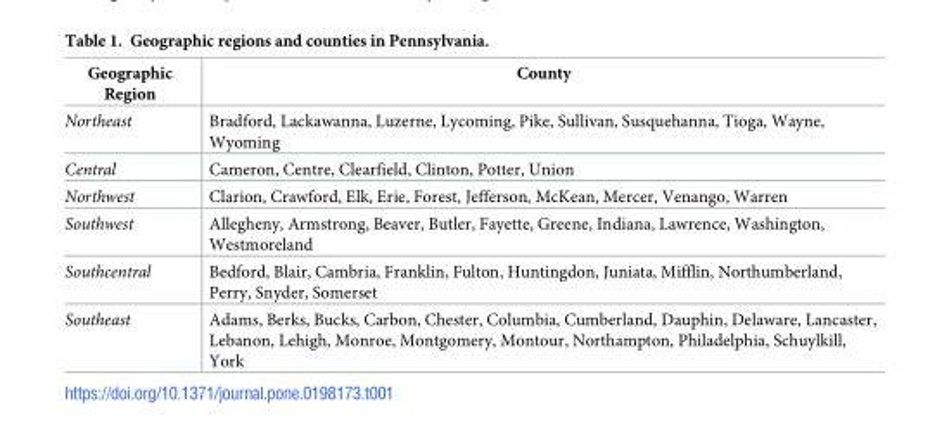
<table><thead><tr><td>Geographic Region</td><td>County</td></tr></thead><tbody><tr><td>Northeast</td><td>Bradford, Lackawanna, Luzerne, Lycoming, Pike, Sullivan, Susquehanna, Tioga, Wayne, Wyoming</td></tr><tr><td>Central</td><td>Cameron, Centre, Clearfield, Clinton, Potter, Union</td></tr><tr><td>Northwest</td><td>Clarion, Crawford, Elk, Erie, Forest, Jefferson, McKean, Mercer, Venango, Warren</td></tr><tr><td>Southwest</td><td>Allegheny, Armstrong, Beaver, Butler, Fayette, Greene, Indiana, Lawrence, Washington, Westmoreland</td></tr><tr><td>Southcentral</td><td>Bedford, Blair, Cambria, Franklin, Fulton, Huntingdon, Juniata, Mifflin, Northumberland, Perry, Snyder, Somerset</td></tr><tr><td>Southeast</td><td>Adams, Berks, Bucks, Carbon, Chester, Columbia, Cumberland, Dauphin, Delaware, Lancaster, Lebanon, Lehigh, Monroe, Montgomery, Montour, Northampton, Philadelphia, Schuylkill, York</td></tr></tbody></table>